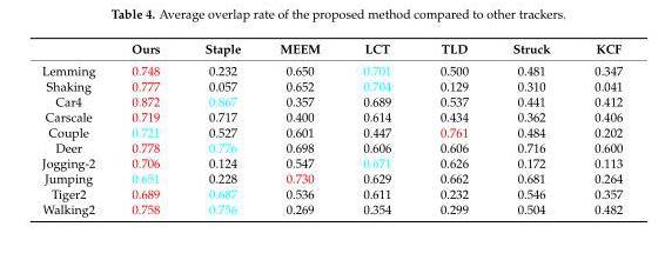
<table><thead><tr><td></td><td>Ours</td><td>Staple</td><td>MEEM</td><td>LCT</td><td>TLD</td><td>Struck</td><td>KCF</td></tr></thead><tbody><tr><td>Lemming</td><td>0.748</td><td>0.232</td><td>0.650</td><td>0.701</td><td>0.500</td><td>0.481</td><td>0.347</td></tr><tr><td>Shaking</td><td>0.777</td><td>0.057</td><td>0.652</td><td>0.704</td><td>0.129</td><td>0.310</td><td>0.041</td></tr><tr><td>Car4</td><td>0.872</td><td>0.867</td><td>0.357</td><td>0.689</td><td>0.537</td><td>0.441</td><td>0.412</td></tr><tr><td>Carscale</td><td>0.719</td><td>0.717</td><td>0.400</td><td>0.614</td><td>0.434</td><td>0.362</td><td>0.406</td></tr><tr><td>Couple</td><td>0.721</td><td>0.527</td><td>0.601</td><td>0.447</td><td>0.761</td><td>0.484</td><td>0.202</td></tr><tr><td>Deer</td><td>0.778</td><td>0.776</td><td>0.698</td><td>0.606</td><td>0.606</td><td>0.716</td><td>0.600</td></tr><tr><td>Jogging-2</td><td>0.706</td><td>0.124</td><td>0.547</td><td>0.671</td><td>0.626</td><td>0.172</td><td>0.113</td></tr><tr><td>Jumping</td><td>0.651</td><td>0.228</td><td>0.730</td><td>0.629</td><td>0.662</td><td>0.681</td><td>0.264</td></tr><tr><td>Tiger2</td><td>0.689</td><td>0.687</td><td>0.536</td><td>0.611</td><td>0.232</td><td>0.546</td><td>0.357</td></tr><tr><td>Walking2</td><td>0.758</td><td>0.756</td><td>0.269</td><td>0.354</td><td>0.299</td><td>0.504</td><td>0.482</td></tr></tbody></table>